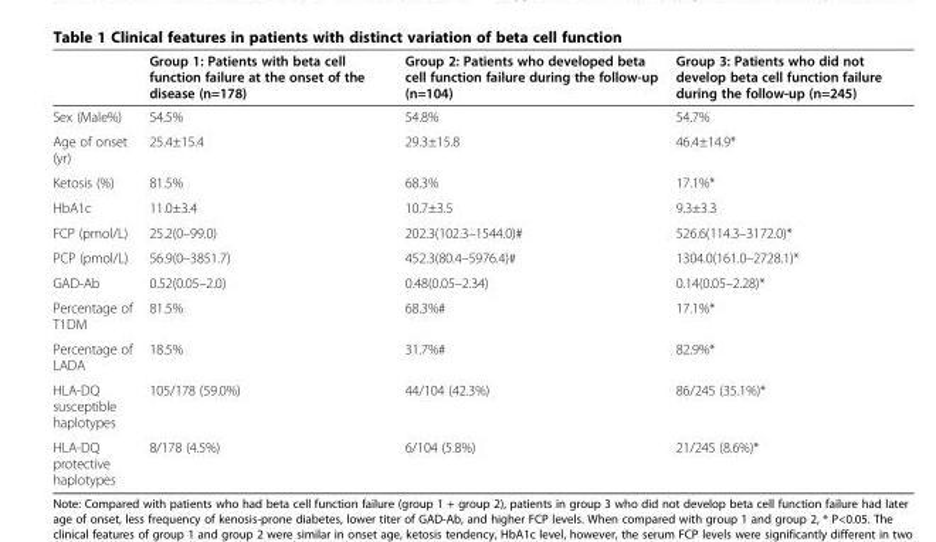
<table><thead><tr><td></td><td>Group 1: Patients with beta cell function failure at the onset of the disease (n=178)</td><td>Group 2: Patients who developed beta cell function failure during the follow-up (n=104)</td><td>Group 3: Patients who did not develop beta cell function failure during the follow-up (n=245)</td></tr></thead><tbody><tr><td>Sex (Male%)</td><td>54.5%</td><td>54.8%</td><td>54.7%</td></tr><tr><td>Age of onset (yr)</td><td>25.4±15.4</td><td>29.3±15.8</td><td>46.4±14.9*</td></tr><tr><td>Ketosis (%)</td><td>81.5%</td><td>68.3%</td><td>17.1%*</td></tr><tr><td>HbA1c</td><td>11.0±3.4</td><td>10.7±3.5</td><td>9.3±3.3</td></tr><tr><td>FCP (pmol/L)</td><td>25.2(0–99.0)</td><td>202.3(102.3–1544.0)#</td><td>526.6(114.3–3172.0)*</td></tr><tr><td>PCP (pmol/L)</td><td>56.9(0–3851.7)</td><td>452.3(80.4–5976.4)#</td><td>1304.0(161.0–2728.1)*</td></tr><tr><td>GAD-Ab</td><td>0.52(0.05–2.0)</td><td>0.48(0.05–2.34)</td><td>0.14(0.05–2.28)*</td></tr><tr><td>Percentage of T1DM</td><td>81.5%</td><td>68.3%#</td><td>17.1%*</td></tr><tr><td>Percentage of LADA</td><td>18.5%</td><td>31.7%#</td><td>82.9%*</td></tr><tr><td>HLA-DQ susceptible haplotypes</td><td>105/178 (59.0%)</td><td>44/104 (42.3%)</td><td>86/245 (35.1%)*</td></tr><tr><td>HLA-DQ protective haplotypes</td><td>8/178 (4.5%)</td><td>6/104 (5.8%)</td><td>21/245 (8.6%)*</td></tr></tbody></table>